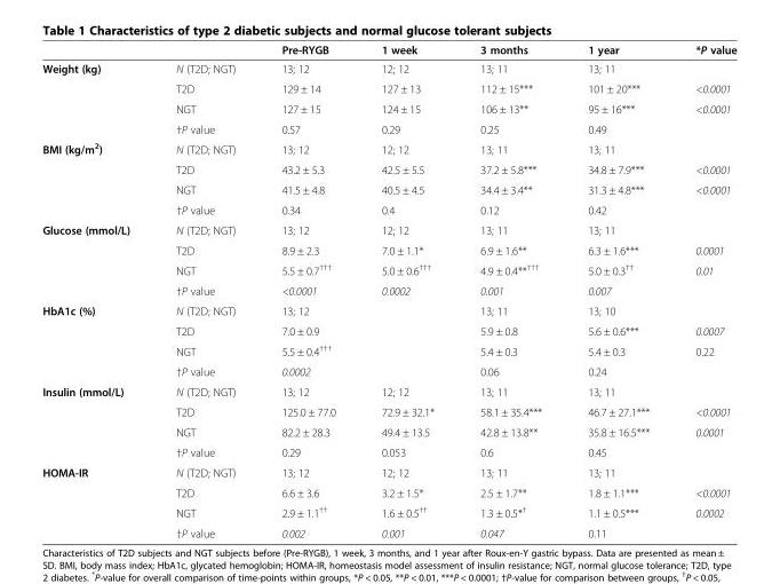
<table><thead><tr><td></td><td></td><td>Pre-RYGB</td><td>1 week</td><td>3 months</td><td>1 year</td><td>*P value</td></tr></thead><tbody><tr><td rowspan="4">Weight (kg)</td><td>N (T2D; NGT)</td><td>13; 12</td><td>12; 12</td><td>13; 11</td><td>13; 11</td><td></td></tr><tr><td>T2D</td><td>129 ± 14</td><td>127 ± 13</td><td>112 ± 15***</td><td>101 ± 20***</td><td>&lt;0.0001</td></tr><tr><td>NGT</td><td>127 ± 15</td><td>124 ± 15</td><td>106 ± 13**</td><td>95 ± 16***</td><td>&lt;0.0001</td></tr><tr><td>†P value</td><td>0.57</td><td>0.29</td><td>0.25</td><td>0.49</td><td></td></tr><tr><td rowspan="4">BMI (kg/m<sup>2</sup>)</td><td>N (T2D; NGT)</td><td>13; 12</td><td>12; 12</td><td>13; 11</td><td>13; 11</td><td></td></tr><tr><td>T2D</td><td>43.2 ± 5.3</td><td>42.5 ± 5.5</td><td>37.2 ± 5.8***</td><td>34.8 ± 7.9***</td><td>&lt;0.0001</td></tr><tr><td>NGT</td><td>41.5 ± 4.8</td><td>40.5 ± 4.5</td><td>34.4 ± 3.4**</td><td>31.3 ± 4.8***</td><td>&lt;0.0001</td></tr><tr><td>†P value</td><td>0.34</td><td>0.4</td><td>0.12</td><td>0.42</td><td></td></tr><tr><td rowspan="4">Glucose (mmol/L)</td><td>N (T2D; NGT)</td><td>13; 12</td><td>12; 12</td><td>13; 11</td><td>13; 11</td><td></td></tr><tr><td>T2D</td><td>8.9 ± 2.3</td><td>7.0 ± 1.1*</td><td>6.9 ± 1.6**</td><td>6.3 ± 1.6***</td><td>0.0001</td></tr><tr><td>NGT</td><td>5.5 ± 0.7<sup>†††</sup></td><td>5.0 ± 0.6<sup>†††</sup></td><td>4.9 ± 0.4**<sup>†††</sup></td><td>5.0 ± 0.3<sup>††</sup></td><td>0.01</td></tr><tr><td>†P value</td><td>&lt;0.0001</td><td>0.0002</td><td>0.001</td><td>0.007</td><td></td></tr><tr><td rowspan="4">HbA1c (%)</td><td>N (T2D; NGT)</td><td>13; 12</td><td></td><td>13; 11</td><td>13; 10</td><td></td></tr><tr><td>T2D</td><td>7.0 ± 0.9</td><td></td><td>5.9 ± 0.8</td><td>5.6 ± 0.6***</td><td>0.0007</td></tr><tr><td>NGT</td><td>5.5 ± 0.4<sup>†††</sup></td><td></td><td>5.4 ± 0.3</td><td>5.4 ± 0.3</td><td>0.22</td></tr><tr><td>†P value</td><td>0.0002</td><td></td><td>0.06</td><td>0.24</td><td></td></tr><tr><td rowspan="4">Insulin (mmol/L)</td><td>N (T2D; NGT)</td><td>13; 12</td><td>12; 12</td><td>13; 11</td><td>13; 11</td><td></td></tr><tr><td>T2D</td><td>125.0 ± 77.0</td><td>72.9 ± 32.1*</td><td>58.1 ± 35.4***</td><td>46.7 ± 27.1***</td><td>&lt;0.0001</td></tr><tr><td>NGT</td><td>82.2 ± 28.3</td><td>49.4 ± 13.5</td><td>42.8 ± 13.8**</td><td>35.8 ± 16.5***</td><td>0.0001</td></tr><tr><td>†P value</td><td>0.29</td><td>0.053</td><td>0.6</td><td>0.45</td><td></td></tr><tr><td rowspan="4">HOMA-IR</td><td>N (T2D; NGT)</td><td>13; 12</td><td>12; 12</td><td>13; 11</td><td>13; 11</td><td></td></tr><tr><td>T2D</td><td>6.6 ± 3.6</td><td>3.2 ± 1.5*</td><td>2.5 ± 1.7**</td><td>1.8 ± 1.1***</td><td>&lt;0.0001</td></tr><tr><td>NGT</td><td>2.9 ± 1.1<sup>††</sup></td><td>1.6 ± 0.5<sup>††</sup></td><td>1.3 ± 0.5*<sup>†</sup></td><td>1.1 ± 0.5***</td><td>0.0002</td></tr><tr><td>†P value</td><td>0.002</td><td>0.001</td><td>0.047</td><td>0.11</td><td></td></tr></tbody></table>